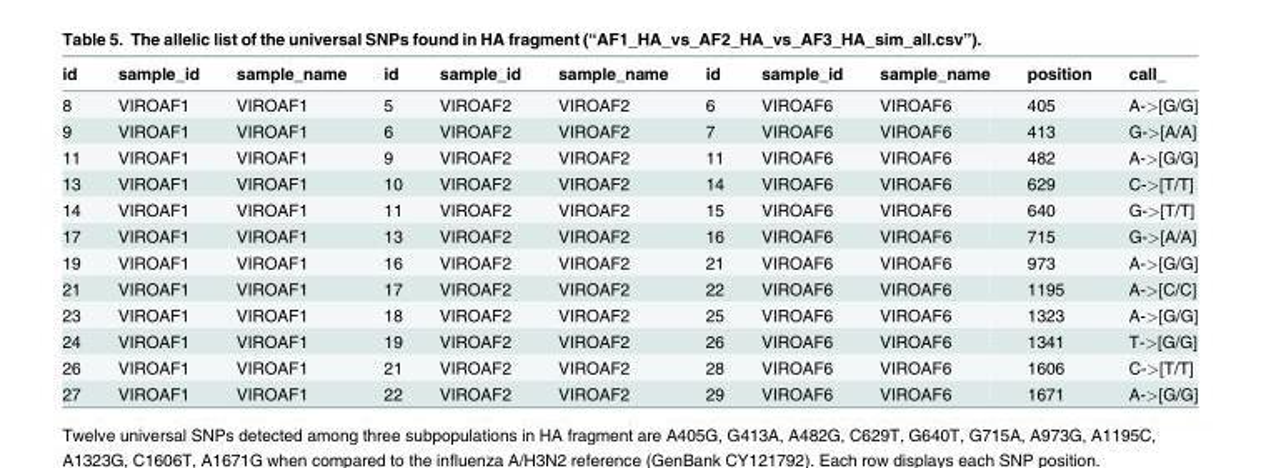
<table><thead><tr><td>id</td><td>sample_id</td><td>sample_name</td><td>id</td><td>sample_id</td><td>sample_name</td><td>id</td><td>sample_id</td><td>sample_name</td><td>position</td><td>call_</td></tr></thead><tbody><tr><td>8</td><td>VIROAF1</td><td>VIROAF1</td><td>5</td><td>VIROAF2</td><td>VIROAF2</td><td>6</td><td>VIROAF6</td><td>VIROAF6</td><td>405</td><td>A-&gt;[G/G]</td></tr><tr><td>9</td><td>VIROAF1</td><td>VIROAF1</td><td>6</td><td>VIROAF2</td><td>VIROAF2</td><td>7</td><td>VIROAF6</td><td>VIROAF6</td><td>413</td><td>G-&gt;[A/A]</td></tr><tr><td>11</td><td>VIROAF1</td><td>VIROAF1</td><td>9</td><td>VIROAF2</td><td>VIROAF2</td><td>11</td><td>VIROAF6</td><td>VIROAF6</td><td>482</td><td>A-&gt;[G/G]</td></tr><tr><td>13</td><td>VIROAF1</td><td>VIROAF1</td><td>10</td><td>VIROAF2</td><td>VIROAF2</td><td>14</td><td>VIROAF6</td><td>VIROAF6</td><td>629</td><td>C-&gt;[T/T]</td></tr><tr><td>14</td><td>VIROAF1</td><td>VIROAF1</td><td>11</td><td>VIROAF2</td><td>VIROAF2</td><td>15</td><td>VIROAF6</td><td>VIROAF6</td><td>640</td><td>G-&gt;[T/T]</td></tr><tr><td>17</td><td>VIROAF1</td><td>VIROAF1</td><td>13</td><td>VIROAF2</td><td>VIROAF2</td><td>16</td><td>VIROAF6</td><td>VIROAF6</td><td>715</td><td>G-&gt;[A/A]</td></tr><tr><td>19</td><td>VIROAF1</td><td>VIROAF1</td><td>16</td><td>VIROAF2</td><td>VIROAF2</td><td>21</td><td>VIROAF6</td><td>VIROAF6</td><td>973</td><td>A-&gt;[G/G]</td></tr><tr><td>21</td><td>VIROAF1</td><td>VIROAF1</td><td>17</td><td>VIROAF2</td><td>VIROAF2</td><td>22</td><td>VIROAF6</td><td>VIROAF6</td><td>1195</td><td>A-&gt;[C/C]</td></tr><tr><td>23</td><td>VIROAF1</td><td>VIROAF1</td><td>18</td><td>VIROAF2</td><td>VIROAF2</td><td>25</td><td>VIROAF6</td><td>VIROAF6</td><td>1323</td><td>A-&gt;[G/G]</td></tr><tr><td>24</td><td>VIROAF1</td><td>VIROAF1</td><td>19</td><td>VIROAF2</td><td>VIROAF2</td><td>26</td><td>VIROAF6</td><td>VIROAF6</td><td>1341</td><td>T-&gt;[G/G]</td></tr><tr><td>26</td><td>VIROAF1</td><td>VIROAF1</td><td>21</td><td>VIROAF2</td><td>VIROAF2</td><td>28</td><td>VIROAF6</td><td>VIROAF6</td><td>1606</td><td>C-&gt;[T/T]</td></tr><tr><td>27</td><td>VIROAF1</td><td>VIROAF1</td><td>22</td><td>VIROAF2</td><td>VIROAF2</td><td>29</td><td>VIROAF6</td><td>VIROAF6</td><td>1671</td><td>A-&gt;[G/G]</td></tr></tbody></table>